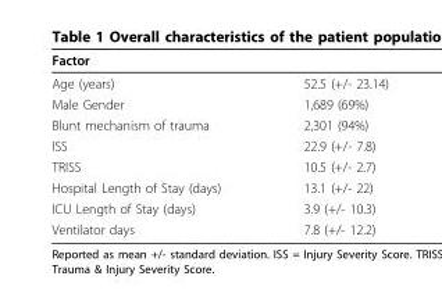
<table><thead><tr><td>Factor</td><td></td></tr></thead><tbody><tr><td>Age (years)</td><td>52.5 (+/- 23.14)</td></tr><tr><td>Male Gender</td><td>1,689 (69%)</td></tr><tr><td>Blunt mechanism of trauma</td><td>2,301 (94%)</td></tr><tr><td>ISS</td><td>22.9 (+/- 7.8)</td></tr><tr><td>TRISS</td><td>10.5 (+/- 2.7)</td></tr><tr><td>Hospital Length of Stay (days)</td><td>13.1 (+/- 22)</td></tr><tr><td>ICU Length of Stay (days)</td><td>3.9 (+/- 10.3)</td></tr><tr><td>Ventilator days</td><td>7.8 (+/- 12.2)</td></tr></tbody></table>